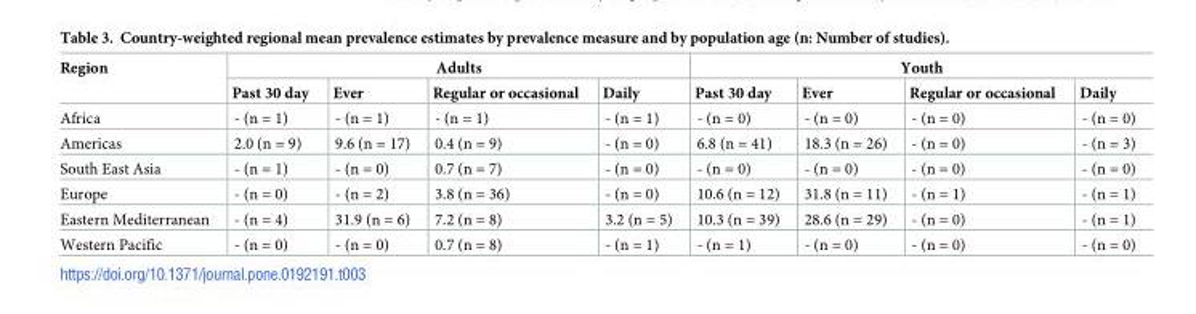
<table><thead><tr><td rowspan="2">Region</td><td colspan="4">Adults</td><td colspan="4">Youth</td></tr><tr><td>Past 30 day</td><td>Ever</td><td>Regular or occasional</td><td>Daily</td><td>Past 30 day</td><td>Ever</td><td>Regular or occasional</td><td>Daily</td></tr></thead><tbody><tr><td>Africa</td><td>- (n = 1)</td><td>- (n = 1)</td><td>- (n = 1)</td><td>- (n = 1)</td><td>- (n = 0)</td><td>- (n = 0)</td><td>- (n = 0)</td><td>- (n = 0)</td></tr><tr><td>Americas</td><td>2.0 (n = 9)</td><td>9.6 (n = 17)</td><td>0.4 (n = 9)</td><td>- (n = 0)</td><td>6.8 (n = 41)</td><td>18.3 (n = 26)</td><td>- (n = 0)</td><td>- (n = 3)</td></tr><tr><td>South East Asia</td><td>- (n = 1)</td><td>- (n = 0)</td><td>0.7 (n = 7)</td><td>- (n = 0)</td><td>- (n = 0)</td><td>- (n = 0)</td><td>- (n = 0)</td><td>- (n = 0)</td></tr><tr><td>Europe</td><td>- (n = 0)</td><td>- (n = 2)</td><td>3.8 (n = 36)</td><td>- (n = 0)</td><td>10.6 (n = 12)</td><td>31.8 (n = 11)</td><td>- (n = 1)</td><td>- (n = 1)</td></tr><tr><td>Eastern Mediterranean</td><td>- (n = 4)</td><td>31.9 (n = 6)</td><td>7.2 (n = 8)</td><td>3.2 (n = 5)</td><td>10.3 (n = 39)</td><td>28.6 (n = 29)</td><td>- (n = 0)</td><td>- (n = 1)</td></tr><tr><td>Western Pacific</td><td>- (n = 0)</td><td>- (n = 0)</td><td>0.7 (n = 8)</td><td>- (n = 1)</td><td>- (n = 1)</td><td>- (n = 0)</td><td>- (n = 0)</td><td>- (n = 0)</td></tr></tbody></table>